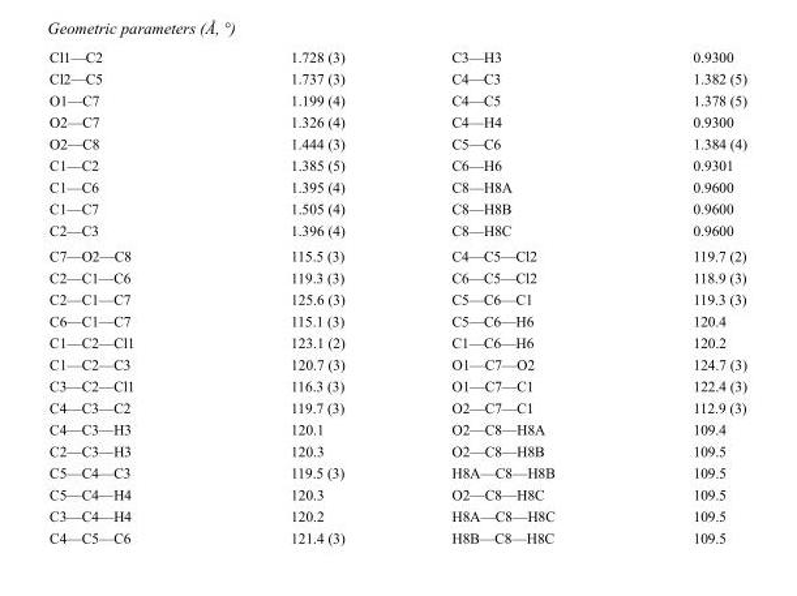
<table><tbody><tr><td>Cl1—C2</td><td>1.728 (3)</td><td>C3—H3</td><td>0.9300</td></tr><tr><td>Cl2—C5</td><td>1.737 (3)</td><td>C4—C3</td><td>1.382 (5)</td></tr><tr><td>O1—C7</td><td>1.199 (4)</td><td>C4—C5</td><td>1.378 (5)</td></tr><tr><td>O2—C7</td><td>1.326 (4)</td><td>C4—H4</td><td>0.9300</td></tr><tr><td>O2—C8</td><td>1.444 (3)</td><td>C5—C6</td><td>1.384 (4)</td></tr><tr><td>C1—C2</td><td>1.385 (5)</td><td>C6—H6</td><td>0.9301</td></tr><tr><td>C1—C6</td><td>1.395 (4)</td><td>C8—H8A</td><td>0.9600</td></tr><tr><td>C1—C7</td><td>1.505 (4)</td><td>C8—H8B</td><td>0.9600</td></tr><tr><td>C2—C3</td><td>1.396 (4)</td><td>C8—H8C</td><td>0.9600</td></tr><tr><td>C7—O2—C8</td><td>115.5 (3)</td><td>C4—C5—Cl2</td><td>119.7 (2)</td></tr><tr><td>C2—C1—C6</td><td>119.3 (3)</td><td>C6—C5—Cl2</td><td>118.9 (3)</td></tr><tr><td>C2—C1—C7</td><td>125.6 (3)</td><td>C5—C6—C1</td><td>119.3 (3)</td></tr><tr><td>C6—C1—C7</td><td>115.1 (3)</td><td>C5—C6—H6</td><td>120.4</td></tr><tr><td>C1—C2—Cl1</td><td>123.1 (2)</td><td>C1—C6—H6</td><td>120.2</td></tr><tr><td>C1—C2—C3</td><td>120.7 (3)</td><td>O1—C7—O2</td><td>124.7 (3)</td></tr><tr><td>C3—C2—Cl1</td><td>116.3 (3)</td><td>O1—C7—C1</td><td>122.4 (3)</td></tr><tr><td>C4—C3—C2</td><td>119.7 (3)</td><td>O2—C7—C1</td><td>112.9 (3)</td></tr><tr><td>C4—C3—H3</td><td>120.1</td><td>O2—C8—H8A</td><td>109.4</td></tr><tr><td>C2—C3—H3</td><td>120.3</td><td>O2—C8—H8B</td><td>109.5</td></tr><tr><td>C5—C4—C3</td><td>119.5 (3)</td><td>H8A—C8—H8B</td><td>109.5</td></tr><tr><td>C5—C4—H4</td><td>120.3</td><td>O2—C8—H8C</td><td>109.5</td></tr><tr><td>C3—C4—H4</td><td>120.2</td><td>H8A—C8—H8C</td><td>109.5</td></tr><tr><td>C4—C5—C6</td><td>121.4 (3)</td><td>H8B—C8—H8C</td><td>109.5</td></tr></tbody></table>